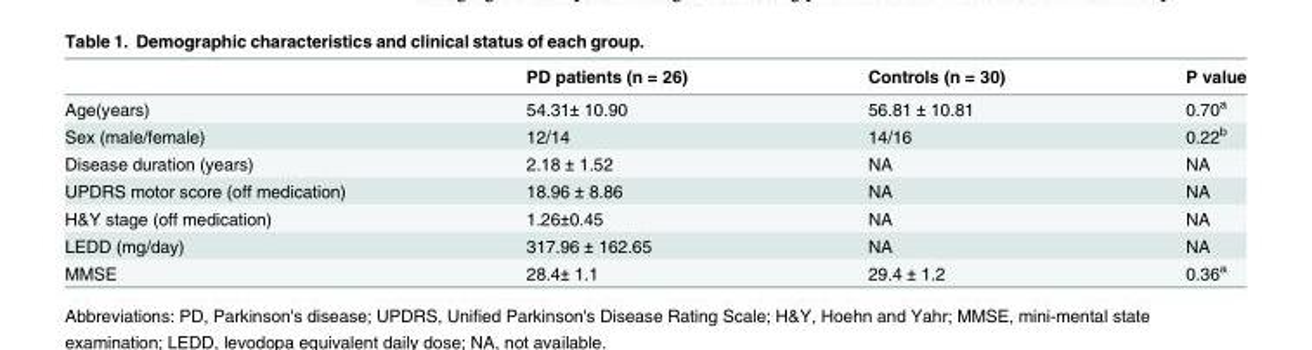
<table><thead><tr><td></td><td>PD patients (n = 26)</td><td>Controls (n = 30)</td><td>P value</td></tr></thead><tbody><tr><td>Age(years)</td><td>54.31± 10.90</td><td>56.81 ± 10.81</td><td>0.70<sup>a</sup></td></tr><tr><td>Sex (male/female)</td><td>12/14</td><td>14/16</td><td>0.22<sup>b</sup></td></tr><tr><td>Disease duration (years)</td><td>2.18 ± 1.52</td><td>NA</td><td>NA</td></tr><tr><td>UPDRS motor score (off medication)</td><td>18.96 ± 8.86</td><td>NA</td><td>NA</td></tr><tr><td>H&amp;Y stage (off medication)</td><td>1.26±0.45</td><td>NA</td><td>NA</td></tr><tr><td>LEDD (mg/day)</td><td>317.96 ± 162.65</td><td>NA</td><td>NA</td></tr><tr><td>MMSE</td><td>28.4± 1.1</td><td>29.4 ± 1.2</td><td>0.36<sup>a</sup></td></tr></tbody></table>